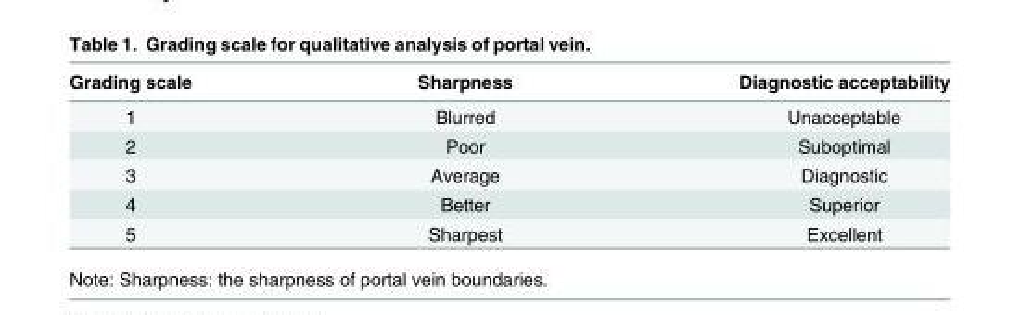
<table><thead><tr><td>Grading scale</td><td>Sharpness</td><td>Diagnostic acceptability</td></tr></thead><tbody><tr><td>1</td><td>Blurred</td><td>Unacceptable</td></tr><tr><td>2</td><td>Poor</td><td>Suboptimal</td></tr><tr><td>3</td><td>Average</td><td>Diagnostic</td></tr><tr><td>4</td><td>Better</td><td>Superior</td></tr><tr><td>5</td><td>Sharpest</td><td>Excellent</td></tr></tbody></table>